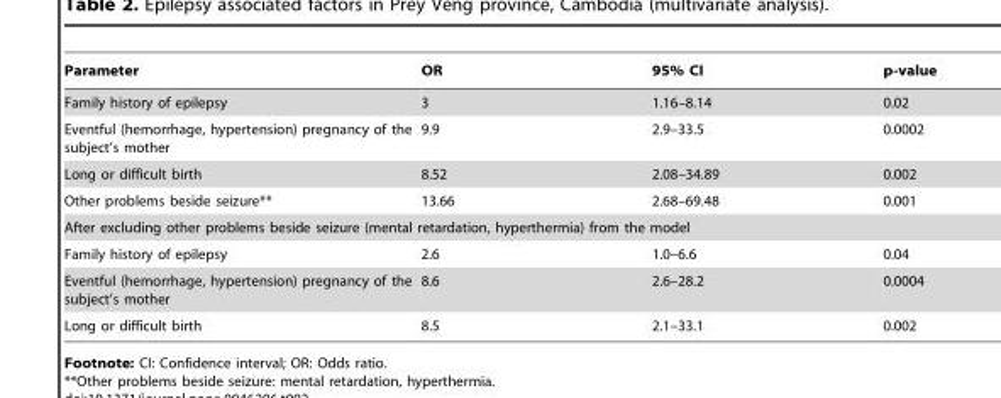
<table><thead><tr><td>Parameter</td><td>OR</td><td>95% CI</td><td>p-value</td></tr></thead><tbody><tr><td>Family history of epilepsy</td><td>3</td><td>1.16–8.14</td><td>0.02</td></tr><tr><td>Eventful (hemorrhage, hypertension) pregnancy of the subject’s mother</td><td>9.9</td><td>2.9–33.5</td><td>0.0002</td></tr><tr><td>Long or difficult birth</td><td>8.52</td><td>2.08–34.89</td><td>0.002</td></tr><tr><td>Other problems beside seizure**</td><td>13.66</td><td>2.68–69.48</td><td>0.001</td></tr><tr><td colspan="4">After excluding other problems beside seizure (mental retardation, hyperthermia) from the model</td></tr><tr><td>Family history of epilepsy</td><td>2.6</td><td>1.0–6.6</td><td>0.04</td></tr><tr><td>Eventful (hemorrhage, hypertension) pregnancy of the subject’s mother</td><td>8.6</td><td>2.6–28.2</td><td>0.0004</td></tr><tr><td>Long or difficult birth</td><td>8.5</td><td>2.1–33.1</td><td>0.002</td></tr></tbody></table>